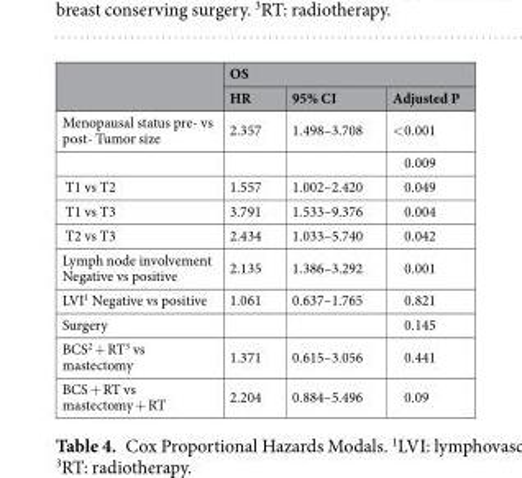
<table><thead><tr><td rowspan="2"></td><td colspan="3">OS</td></tr><tr><td>HR</td><td>95% CI</td><td>Adjusted P</td></tr></thead><tbody><tr><td rowspan="2">Menopausal status pre- vs post- Tumor size</td><td>2.357</td><td>1.498–3.708</td><td>&lt;0.001</td></tr><tr><td></td><td></td><td>0.009</td></tr><tr><td>T1 vs T2</td><td>1.557</td><td>1.002–2.420</td><td>0.049</td></tr><tr><td>T1 vs T3</td><td>3.791</td><td>1.533–9.376</td><td>0.004</td></tr><tr><td>T2 vs T3</td><td>2.434</td><td>1.033–5.740</td><td>0.042</td></tr><tr><td>Lymph node involvement Negative vs positive</td><td>2.135</td><td>1.386–3.292</td><td>0.001</td></tr><tr><td>LVI<sup>1</sup> Negative vs positive</td><td>1.061</td><td>0.637–1.765</td><td>0.821</td></tr><tr><td>Surgery</td><td></td><td></td><td>0.145</td></tr><tr><td>BCS<sup>2</sup> + RT<sup>3</sup> vs mastectomy</td><td>1.371</td><td>0.615–3.056</td><td>0.441</td></tr><tr><td>BCS + RT vs mastectomy + RT</td><td>2.204</td><td>0.884–5.496</td><td>0.09</td></tr></tbody></table>